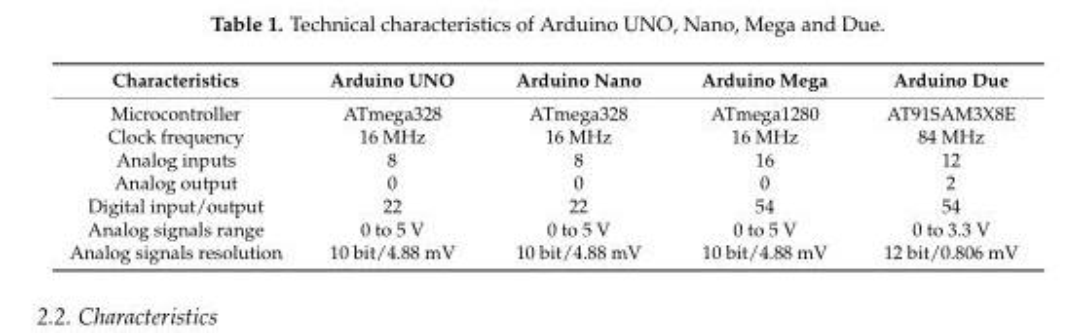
<table><thead><tr><td>Characteristics</td><td>Arduino UNO</td><td>Arduino Nano</td><td>Arduino Mega</td><td>Arduino Due</td></tr></thead><tbody><tr><td>Microcontroller</td><td>ATmega328</td><td>ATmega328</td><td>ATmega1280</td><td>AT91SAM3X8E</td></tr><tr><td>Clock frequency</td><td>16 MHz</td><td>16 MHz</td><td>16 MHz</td><td>84 MHz</td></tr><tr><td>Analog inputs</td><td>8</td><td>8</td><td>16</td><td>12</td></tr><tr><td>Analog output</td><td>0</td><td>0</td><td>0</td><td>2</td></tr><tr><td>Digital input/output</td><td>22</td><td>22</td><td>54</td><td>54</td></tr><tr><td>Analog signals range</td><td>0 to 5 V</td><td>0 to 5 V</td><td>0 to 5 V</td><td>0 to 3.3 V</td></tr><tr><td>Analog signals resolution</td><td>10 bit/4.88 mV</td><td>10 bit/4.88 mV</td><td>10 bit/4.88 mV</td><td>12 bit/0.806 mV</td></tr></tbody></table>